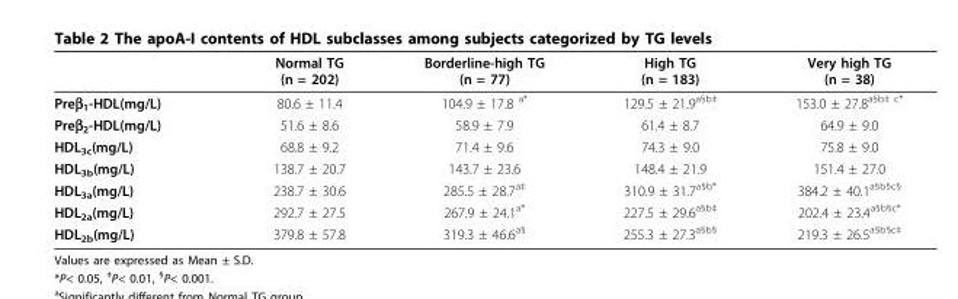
<table><thead><tr><td></td><td>Normal TG (n = 202)</td><td>Borderline-high TG (n = 77)</td><td>High TG (n = 183)</td><td>Very high TG (n = 38)</td></tr></thead><tbody><tr><td>Preβ<sub>1</sub>-HDL(mg/L)</td><td>80.6 ± 11.4</td><td>104.9 ± 17.8 <sup>a*</sup></td><td>129.5 ± 21.9<sup>a§b‡</sup></td><td>153.0 ± 27.8<sup>a§b‡ c*</sup></td></tr><tr><td>Preβ<sub>2</sub>-HDL(mg/L)</td><td>51.6 ± 8.6</td><td>58.9 ± 7.9</td><td>61.4 ± 8.7</td><td>64.9 ± 9.0</td></tr><tr><td>HDL<sub>3c</sub>(mg/L)</td><td>68.8 ± 9.2</td><td>71.4 ± 9.6</td><td>74.3 ± 9.0</td><td>75.8 ± 9.0</td></tr><tr><td>HDL<sub>3b</sub>(mg/L)</td><td>138.7 ± 20.7</td><td>143.7 ± 23.6</td><td>148.4 ± 21.9</td><td>151.4 ± 27.0</td></tr><tr><td>HDL<sub>3a</sub>(mg/L)</td><td>238.7 ± 30.6</td><td>285.5 ± 28.7<sup>a‡</sup></td><td>310.9 ± 31.7<sup>a§b*</sup></td><td>384.2 ± 40.1<sup>a§b§c§</sup></td></tr><tr><td>HDL<sub>2a</sub>(mg/L)</td><td>292.7 ± 27.5</td><td>267.9 ± 24.1<sup>a*</sup></td><td>227.5 ± 29.6<sup>a§b‡</sup></td><td>202.4 ± 23.4<sup>a§b§c*</sup></td></tr><tr><td>HDL<sub>2b</sub>(mg/L)</td><td>379.8 ± 57.8</td><td>319.3 ± 46.6<sup>a§</sup></td><td>255.3 ± 27.3<sup>a§b§</sup></td><td>219.3 ± 26.5<sup>a§b§c‡</sup></td></tr></tbody></table>